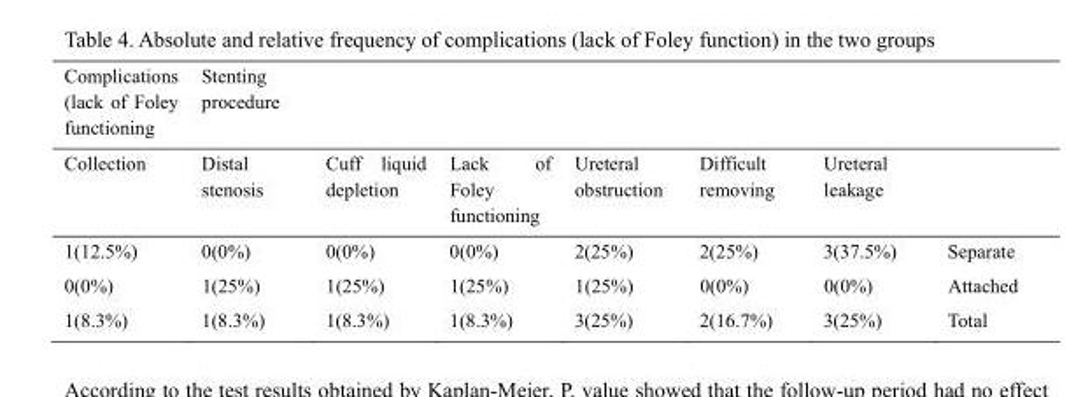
<table><thead><tr><td rowspan="2">Complications (lack of Foley functioning Collection</td><td rowspan="2">Stenting procedure Distal stenosis</td><td rowspan="2">Cuff liquid depletion</td><td rowspan="2">Lack of Foley functioning</td><td rowspan="2">Ureteral obstruction</td><td rowspan="2">Difficult removing</td><td rowspan="2">Ureteral leakage</td><td rowspan="2"></td></tr><tr></tr></thead><tbody><tr><td>1(12.5%)</td><td>0(0%)</td><td>0(0%)</td><td>0(0%)</td><td>2(25%)</td><td>2(25%)</td><td>3(37.5%)</td><td>Separate</td></tr><tr><td>0(0%)</td><td>1(25%)</td><td>1(25%)</td><td>1(25%)</td><td>1(25%)</td><td>0(0%)</td><td>0(0%)</td><td>Attached</td></tr><tr><td>1(8.3%)</td><td>1(8.3%)</td><td>1(8.3%)</td><td>1(8.3%)</td><td>3(25%)</td><td>2(16.7%)</td><td>3(25%)</td><td>Total</td></tr></tbody></table>